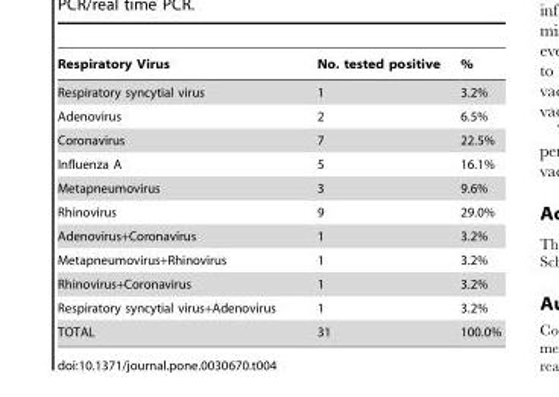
<table><thead><tr><td>Respiratory Virus</td><td>No. tested positive</td><td>%</td></tr></thead><tbody><tr><td>Respiratory syncytial virus</td><td>1</td><td>3.2%</td></tr><tr><td>Adenovirus</td><td>2</td><td>6.5%</td></tr><tr><td>Coronavirus</td><td>7</td><td>22.5%</td></tr><tr><td>Influenza A</td><td>5</td><td>16.1%</td></tr><tr><td>Metapneumovirus</td><td>3</td><td>9.6%</td></tr><tr><td>Rhinovirus</td><td>9</td><td>29.0%</td></tr><tr><td>Adenovirus+Coronavirus</td><td>1</td><td>3.2%</td></tr><tr><td>Metapneumovirus+Rhinovirus</td><td>1</td><td>3.2%</td></tr><tr><td>Rhinovirus+Coronavirus</td><td>1</td><td>3.2%</td></tr><tr><td>Respiratory syncytial virus+Adenovirus</td><td>1</td><td>3.2%</td></tr><tr><td>TOTAL</td><td>31</td><td>100.0%</td></tr></tbody></table>